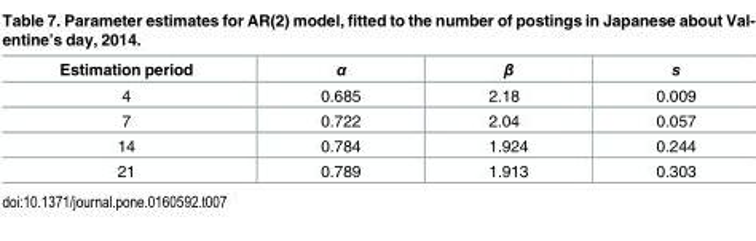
<table><thead><tr><td>Estimation period</td><td>α</td><td>β</td><td>s</td></tr></thead><tbody><tr><td>4</td><td>0.685</td><td>2.18</td><td>0.009</td></tr><tr><td>7</td><td>0.722</td><td>2.04</td><td>0.057</td></tr><tr><td>14</td><td>0.784</td><td>1.924</td><td>0.244</td></tr><tr><td>21</td><td>0.789</td><td>1.913</td><td>0.303</td></tr></tbody></table>